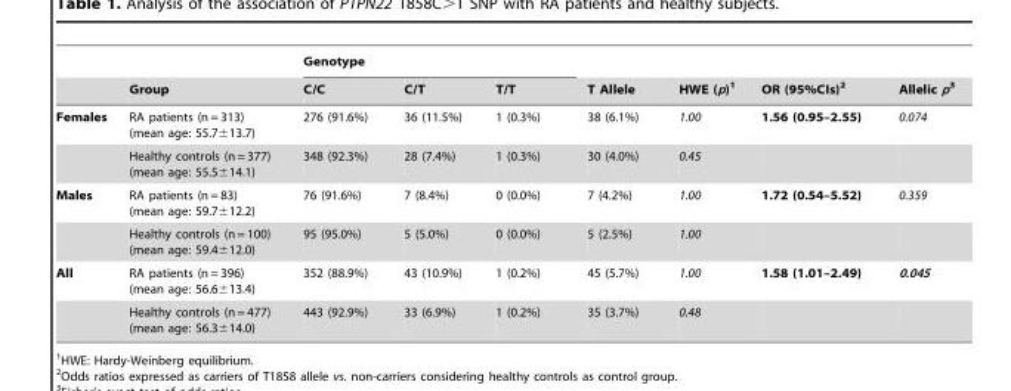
<table><thead><tr><td rowspan="2"></td><td rowspan="2">Group</td><td colspan="3">Genotype</td><td rowspan="2">T Allele</td><td rowspan="2">HWE (p)<sup>1</sup></td><td rowspan="2">OR (95%CIs)<sup>2</sup></td><td rowspan="2">Allelic p3</td></tr><tr><td>C/C</td><td>C/T</td><td>T/T</td></tr></thead><tbody><tr><td rowspan="2">Females</td><td>RA patients (n = 313) (mean age: 55.7±13.7)</td><td>276 (91.6%)</td><td>36 (11.5%)</td><td>1 (0.3%)</td><td>38 (6.1%)</td><td>1.00</td><td>1.56 (0.95–2.55)</td><td>0.074</td></tr><tr><td>Healthy controls (n = 377) (mean age: 55.5±14.1)</td><td>348 (92.3%)</td><td>28 (7.4%)</td><td>1 (0.3%)</td><td>30 (4.0%)</td><td>0.45</td><td></td><td></td></tr><tr><td rowspan="2">Males</td><td>RA patients (n = 83) (mean age: 59.7±12.2)</td><td>76 (91.6%)</td><td>7 (8.4%)</td><td>0 (0.0%)</td><td>7 (4.2%)</td><td>1.00</td><td>1.72 (0.54–5.52)</td><td>0.359</td></tr><tr><td>Healthy controls (n = 100) (mean age: 59.4±12.0)</td><td>95 (95.0%)</td><td>5 (5.0%)</td><td>0 (0.0%)</td><td>5 (2.5%)</td><td>1.00</td><td></td><td></td></tr><tr><td rowspan="2">All</td><td>RA patients (n = 396) (mean age: 56.6±13.4)</td><td>352 (88.9%)</td><td>43 (10.9%)</td><td>1 (0.2%)</td><td>45 (5.7%)</td><td>1.00</td><td>1.58 (1.01–2.49)</td><td>0.045</td></tr><tr><td>Healthy controls (n = 477) (mean age: 56.3±14.0)</td><td>443 (92.9%)</td><td>33 (6.9%)</td><td>1 (0.2%)</td><td>35 (3.7%)</td><td>0.48</td><td></td><td></td></tr></tbody></table>